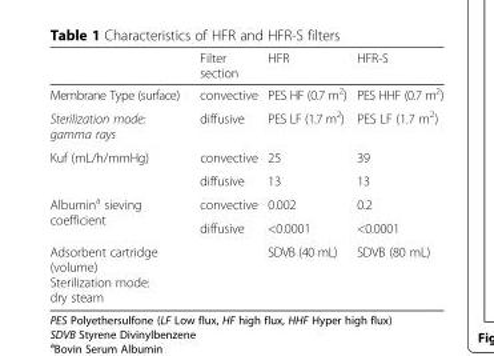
<table><thead><tr><td></td><td>Filter section</td><td>HFR</td><td>HFR-S</td></tr></thead><tbody><tr><td>Membrane Type (surface)</td><td>convective</td><td>PES HF (0.7 m<sup>2</sup>)</td><td>PES HHF (0.7 m<sup>2</sup>)</td></tr><tr><td>Sterilization mode: gamma rays</td><td>diffusive</td><td>PES LF (1.7 m<sup>2</sup>)</td><td>PES LF (1.7 m<sup>2</sup>)</td></tr><tr><td rowspan="2">Kuf (mL/h/mmHg)</td><td>convective</td><td>25</td><td>39</td></tr><tr><td>diffusive</td><td>13</td><td>13</td></tr><tr><td rowspan="2">Albumin<sup>a</sup> sieving coefficient</td><td>convective</td><td>0.002</td><td>0.2</td></tr><tr><td>diffusive</td><td>&lt;0.0001</td><td>&lt;0.0001</td></tr><tr><td>Adsorbent cartridge (volume) Sterilization mode: dry steam</td><td></td><td>SDVB (40 mL)</td><td>SDVB (80 mL)</td></tr></tbody></table>